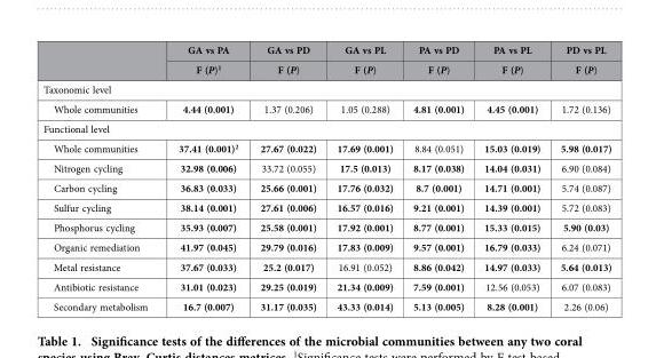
<table><thead><tr><td rowspan="2"></td><td rowspan="2">GA vs PA F (P)<sup>1</sup></td><td rowspan="2">GA vs PD F (P)</td><td rowspan="2">GA vs PL F (P)</td><td rowspan="2">PA vs PD F (P)</td><td rowspan="2">PA vs PL F (P)</td><td rowspan="2">PD vs PL F (P)</td></tr><tr></tr></thead><tbody><tr><td colspan="7">Taxonomic level</td></tr><tr><td>Whole communities</td><td>4.44 (0.001)</td><td>1.37 (0.206)</td><td>1.05 (0.288)</td><td>4.81 (0.001)</td><td>4.45 (0.001)</td><td>1.72 (0.136)</td></tr><tr><td colspan="7">Functional level</td></tr><tr><td>Whole communities</td><td>37.41 (0.001)<sup>2</sup></td><td>27.67 (0.022)</td><td>17.69 (0.001)</td><td>8.84 (0.051)</td><td>15.03 (0.019)</td><td>5.98 (0.017)</td></tr><tr><td>Nitrogen cycling</td><td>32.98 (0.006)</td><td>33.72 (0.055)</td><td>17.5 (0.013)</td><td>8.17 (0.038)</td><td>14.04 (0.031)</td><td>6.90 (0.084)</td></tr><tr><td>Carbon cycling</td><td>36.83 (0.033)</td><td>25.66 (0.001)</td><td>17.76 (0.032)</td><td>8.7 (0.001)</td><td>14.71 (0.001)</td><td>5.74 (0.087)</td></tr><tr><td>Sulfur cycling</td><td>38.14 (0.001)</td><td>27.61 (0.006)</td><td>16.57 (0.016)</td><td>9.21 (0.001)</td><td>14.39 (0.001)</td><td>5.72 (0.083)</td></tr><tr><td>Phosphorus cycling</td><td>35.93 (0.007)</td><td>25.58 (0.001)</td><td>17.92 (0.001)</td><td>8.77 (0.001)</td><td>15.33 (0.015)</td><td>5.90 (0.03)</td></tr><tr><td>Organic remediation</td><td>41.97 (0.045)</td><td>29.79 (0.016)</td><td>17.83 (0.009)</td><td>9.57 (0.001)</td><td>16.79 (0.033)</td><td>6.24 (0.071)</td></tr><tr><td>Metal resistance</td><td>37.67 (0.033)</td><td>25.2 (0.017)</td><td>16.91 (0.052)</td><td>8.86 (0.042)</td><td>14.97 (0.033)</td><td>5.64 (0.013)</td></tr><tr><td>Antibiotic resistance</td><td>31.01 (0.023)</td><td>29.25 (0.019)</td><td>21.34 (0.009)</td><td>7.59 (0.001)</td><td>12.56 (0.053)</td><td>6.07 (0.083)</td></tr><tr><td>Secondary metabolism</td><td>16.7 (0.007)</td><td>31.17 (0.035)</td><td>43.33 (0.014)</td><td>5.13 (0.005)</td><td>8.28 (0.001)</td><td>2.26 (0.06)</td></tr></tbody></table>